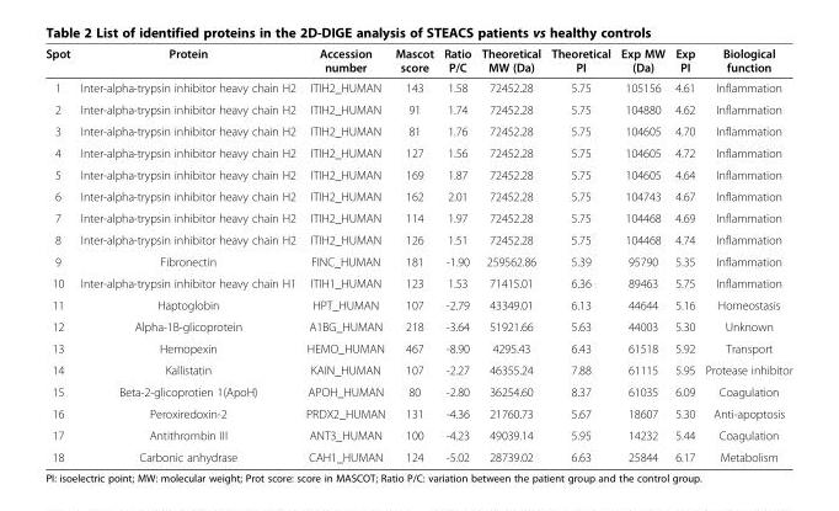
<table><thead><tr><td>Spot</td><td>Protein</td><td>Accession number</td><td>Mascot score</td><td>Ratio P/C</td><td>Theoretical MW (Da)</td><td>Theoretical PI</td><td>Exp MW (Da)</td><td>Exp PI</td><td>Biological function</td></tr></thead><tbody><tr><td>1</td><td>Inter-alpha-trypsin inhibitor heavy chain H2</td><td>ITIH2_HUMAN</td><td>143</td><td>1.58</td><td>72452.28</td><td>5.75</td><td>105156</td><td>4.61</td><td>Inflammation</td></tr><tr><td>2</td><td>Inter-alpha-trypsin inhibitor heavy chain H2</td><td>ITIH2_HUMAN</td><td>91</td><td>1.74</td><td>72452.28</td><td>5.75</td><td>104880</td><td>4.62</td><td>Inflammation</td></tr><tr><td>3</td><td>Inter-alpha-trypsin inhibitor heavy chain H2</td><td>ITIH2_HUMAN</td><td>81</td><td>1.76</td><td>72452.28</td><td>5.75</td><td>104605</td><td>4.70</td><td>Inflammation</td></tr><tr><td>4</td><td>Inter-alpha-trypsin inhibitor heavy chain H2</td><td>ITIH2_HUMAN</td><td>127</td><td>1.56</td><td>72452.28</td><td>5.75</td><td>104605</td><td>4.72</td><td>Inflammation</td></tr><tr><td>5</td><td>Inter-alpha-trypsin inhibitor heavy chain H2</td><td>ITIH2_HUMAN</td><td>169</td><td>1.87</td><td>72452.28</td><td>5.75</td><td>104605</td><td>4.64</td><td>Inflammation</td></tr><tr><td>6</td><td>Inter-alpha-trypsin inhibitor heavy chain H2</td><td>ITIH2_HUMAN</td><td>162</td><td>2.01</td><td>72452.28</td><td>5.75</td><td>104743</td><td>4.67</td><td>Inflammation</td></tr><tr><td>7</td><td>Inter-alpha-trypsin inhibitor heavy chain H2</td><td>ITIH2_HUMAN</td><td>114</td><td>1.97</td><td>72452.28</td><td>5.75</td><td>104468</td><td>4.69</td><td>Inflammation</td></tr><tr><td>8</td><td>Inter-alpha-trypsin inhibitor heavy chain H2</td><td>ITIH2_HUMAN</td><td>126</td><td>1.51</td><td>72452.28</td><td>5.75</td><td>104468</td><td>4.74</td><td>Inflammation</td></tr><tr><td>9</td><td>Fibronectin</td><td>FINC_HUMAN</td><td>181</td><td>-1.90</td><td>259562.86</td><td>5.39</td><td>95790</td><td>5.35</td><td>Inflammation</td></tr><tr><td>10</td><td>Inter-alpha-trypsin inhibitor heavy chain H1</td><td>ITIH1_HUMAN</td><td>123</td><td>1.53</td><td>71415.01</td><td>6.36</td><td>89463</td><td>5.75</td><td>Inflammation</td></tr><tr><td>11</td><td>Haptoglobin</td><td>HPT_HUMAN</td><td>107</td><td>-2.79</td><td>43349.01</td><td>6.13</td><td>44644</td><td>5.16</td><td>Homeostasis</td></tr><tr><td>12</td><td>Alpha-1B-glicoprotein</td><td>A1BG_HUMAN</td><td>218</td><td>-3.64</td><td>51921.66</td><td>5.63</td><td>44003</td><td>5.30</td><td>Unknown</td></tr><tr><td>13</td><td>Hemopexin</td><td>HEMO_HUMAN</td><td>467</td><td>-8.90</td><td>4295.43</td><td>6.43</td><td>61518</td><td>5.92</td><td>Transport</td></tr><tr><td>14</td><td>Kallistatin</td><td>KAIN_HUMAN</td><td>107</td><td>-2.27</td><td>46355.24</td><td>7.88</td><td>61115</td><td>5.95</td><td>Protease inhibitor</td></tr><tr><td>15</td><td>Beta-2-glicoprotien 1(ApoH)</td><td>APOH_HUMAN</td><td>80</td><td>-2.80</td><td>36254.60</td><td>8.37</td><td>61035</td><td>6.09</td><td>Coagulation</td></tr><tr><td>16</td><td>Peroxiredoxin-2</td><td>PRDX2_HUMAN</td><td>131</td><td>-4.36</td><td>21760.73</td><td>5.67</td><td>18607</td><td>5.30</td><td>Anti-apoptosis</td></tr><tr><td>17</td><td>Antithrombin III</td><td>ANT3_HUMAN</td><td>100</td><td>-4.23</td><td>49039.14</td><td>5.95</td><td>14232</td><td>5.44</td><td>Coagulation</td></tr><tr><td>18</td><td>Carbonic anhydrase</td><td>CAH1_HUMAN</td><td>124</td><td>-5.02</td><td>28739.02</td><td>6.63</td><td>25844</td><td>6.17</td><td>Metabolism</td></tr></tbody></table>